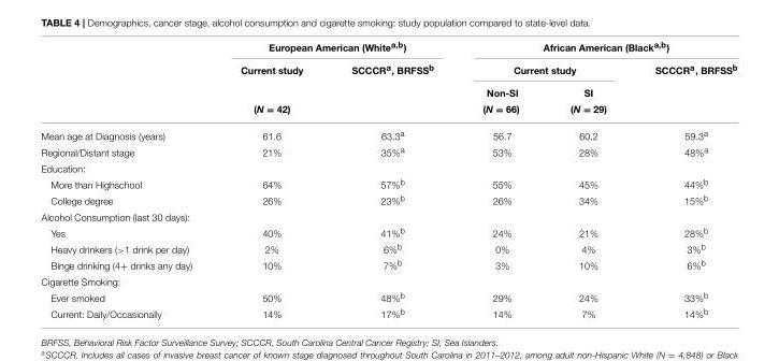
<table><thead><tr><td rowspan="4"></td><td colspan="2">European American (White<sup>a,b</sup>)</td><td colspan="3">African American (Black<sup>a,b</sup>)</td></tr><tr><td rowspan="3">Current study (N = 42)</td><td rowspan="3">SCCCR<sup>a</sup>, BRFSS<sup>b</sup></td><td colspan="2">Current study</td><td rowspan="3">SCCCR<sup>a</sup>, BRFSS<sup>b</sup></td></tr><tr><td rowspan="2">Non-SI (N = 66)</td><td rowspan="2">SI (N = 29)</td></tr><tr></tr></thead><tbody><tr><td>Mean age at Diagnosis (years)</td><td>61.6</td><td>63.3<sup>a</sup></td><td>56.7</td><td>60.2</td><td>59.3<sup>a</sup></td></tr><tr><td>Regional/Distant stage</td><td>21%</td><td>35%<sup>a</sup></td><td>53%</td><td>28%</td><td>48%<sup>a</sup></td></tr><tr><td colspan="6">Education:</td></tr><tr><td>More than Highschool</td><td>64%</td><td>57%<sup>b</sup></td><td>55%</td><td>45%</td><td>44%<sup>b</sup></td></tr><tr><td>College degree</td><td>26%</td><td>23%<sup>b</sup></td><td>26%</td><td>34%</td><td>15%<sup>b</sup></td></tr><tr><td colspan="6">Alcohol Consumption (last 30 days):</td></tr><tr><td>Yes</td><td>40%</td><td>41%<sup>b</sup></td><td>24%</td><td>21%</td><td>28%<sup>b</sup></td></tr><tr><td>Heavy drinkers (&gt;1 drink per day)</td><td>2%</td><td>6%<sup>b</sup></td><td>0%</td><td>4%</td><td>3%<sup>b</sup></td></tr><tr><td>Binge drinking (4+ drinks any day)</td><td>10%</td><td>7%<sup>b</sup></td><td>3%</td><td>10%</td><td>6%<sup>b</sup></td></tr><tr><td colspan="6">Cigarette Smoking:</td></tr><tr><td>Ever smoked</td><td>50%</td><td>48%<sup>b</sup></td><td>29%</td><td>24%</td><td>33%<sup>b</sup></td></tr><tr><td>Current: Daily/Occasionally</td><td>14%</td><td>17%<sup>b</sup></td><td>14%</td><td>7%</td><td>14%<sup>b</sup></td></tr></tbody></table>